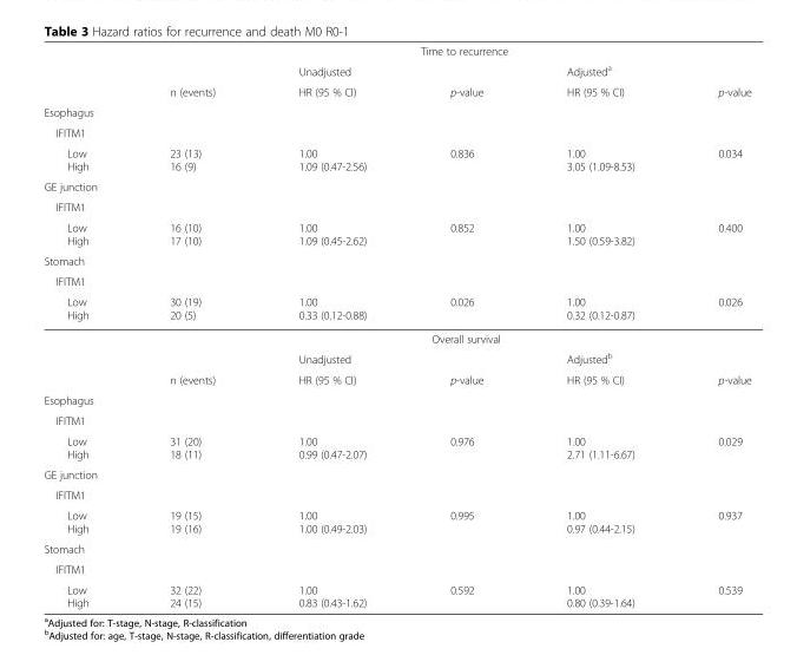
<table><thead><tr><td rowspan="3"></td><td colspan="5">Time to recurrence</td></tr><tr><td rowspan="2">n (events)</td><td colspan="2">Unadjusted</td><td colspan="2">Adjusted<sup>a</sup></td></tr><tr><td>HR (95 % CI)</td><td>p-value</td><td>HR (95 % CI)</td><td>p-value</td></tr></thead><tbody><tr><td colspan="6">Esophagus</td></tr><tr><td colspan="6">IFITM1</td></tr><tr><td>Low High</td><td>23 (13) 16 (9)</td><td>1.00 1.09 (0.47-2.56)</td><td>0.836</td><td>1.00 3.05 (1.09-8.53)</td><td>0.034</td></tr><tr><td colspan="6">GE junction</td></tr><tr><td colspan="6">IFITM1</td></tr><tr><td>Low High</td><td>16 (10) 17 (10)</td><td>1.00 1.09 (0.45-2.62)</td><td>0.852</td><td>1.00 1.50 (0.59-3.82)</td><td>0.400</td></tr><tr><td colspan="6">Stomach</td></tr><tr><td colspan="6">IFITM1</td></tr><tr><td rowspan="4">Low High</td><td>30 (19) 20 (5)</td><td>1.00 0.33 (0.12-0.88)</td><td>0.026</td><td>1.00 0.32 (0.12-0.87)</td><td>0.026</td></tr><tr><td colspan="5">Overall survival</td></tr><tr><td></td><td colspan="2">Unadjusted</td><td colspan="2">Adjusted<sup>b</sup></td></tr><tr><td>n (events)</td><td>HR (95 % CI)</td><td>p-value</td><td>HR (95 % CI)</td><td>p-value</td></tr><tr><td colspan="6">Esophagus</td></tr><tr><td colspan="6">IFITM1</td></tr><tr><td>Low High</td><td>31 (20) 18 (11)</td><td>1.00 0.99 (0.47-2.07)</td><td>0.976</td><td>1.00 2.71 (1.11-6.67)</td><td>0.029</td></tr><tr><td colspan="6">GE junction</td></tr><tr><td colspan="6">IFITM1</td></tr><tr><td>Low High</td><td>19 (15) 19 (16)</td><td>1.00 1.00 (0.49-2.03)</td><td>0.995</td><td>1.00 0.97 (0.44-2.15)</td><td>0.937</td></tr><tr><td colspan="6">Stomach</td></tr><tr><td colspan="6">IFITM1</td></tr><tr><td>Low High</td><td>32 (22) 24 (15)</td><td>1.00 0.83 (0.43-1.62)</td><td>0.592</td><td>1.00 0.80 (0.39-1.64)</td><td>0.539</td></tr></tbody></table>